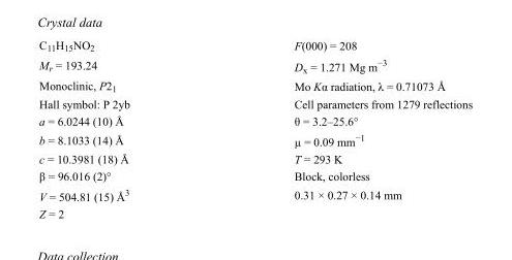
<table><tbody><tr><td>C<sub>11</sub>H<sub>15</sub>NO<sub>2</sub></td><td>F(000) = 208</td></tr><tr><td>M<sub>r</sub> = 193.24</td><td>D<sub>x</sub> = 1.271 Mg m<sup>−3</sup></td></tr><tr><td>Monoclinic, P2<sub>1</sub></td><td>Mo Kα radiation, λ = 0.71073 Å</td></tr><tr><td>Hall symbol: P 2yb</td><td>Cell parameters from 1279 reflections</td></tr><tr><td>a = 6.0244 (10) Å</td><td>θ = 3.2–25.6°</td></tr><tr><td>b = 8.1033 (14) Å</td><td>µ = 0.09 mm<sup>−1</sup></td></tr><tr><td>c = 10.3981 (18) Å</td><td>T = 293 K</td></tr><tr><td>β = 96.016 (2)°</td><td>Block, colorless</td></tr><tr><td>V = 504.81 (15) Å<sup>3</sup></td><td>0.31 × 0.27 × 0.14 mm</td></tr><tr><td>Z = 2</td><td></td></tr></tbody></table>